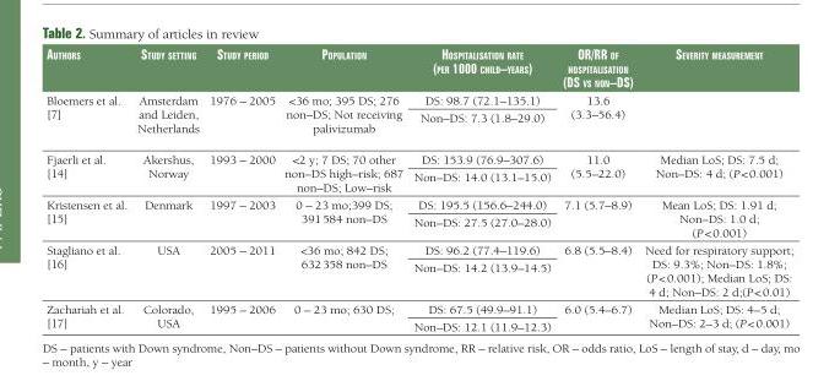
<table><thead><tr><td>AuthorS</td><td>Study Setting</td><td>Study period</td><td>popuLAtion</td><td>hoSpitALiSAtion rAte (per 1000 chiLd–yeArS)</td><td>or/rr of hoSpitALiSAtion (dS VS non–dS)</td><td>SeVerity meASurement</td></tr></thead><tbody><tr><td rowspan="2">Bloemers et al. [7]</td><td rowspan="2">Amsterdam and Leiden, Netherlands</td><td rowspan="2">1976 – 2005</td><td rowspan="2">&lt;36 mo; 395 DS; 276 non–DS; Not receiving palivizumab</td><td>DS: 98.7 (72.1–135.1)</td><td rowspan="2">13.6 (3.3–56.4)</td><td rowspan="2"></td></tr><tr><td>Non–DS: 7.3 (1.8–29.0)</td></tr><tr><td rowspan="2">Fjaerli et al. [14]</td><td rowspan="2">Akershus, Norway</td><td rowspan="2">1993 – 2000</td><td rowspan="2">&lt;2 y; 7 DS; 70 other non–DS high–risk; 687 non–DS; Low–risk</td><td>DS: 153.9 (76.9–307.6)</td><td rowspan="2">11.0 (5.5–22.0)</td><td rowspan="2">Median LoS; DS: 7.5 d; Non–DS: 4 d; (P &lt; 0.001)</td></tr><tr><td>Non–DS: 14.0 (13.1–15.0)</td></tr><tr><td rowspan="2">Kristensen et al. [15]</td><td rowspan="2">Denmark</td><td rowspan="2">1997 – 2003</td><td rowspan="2">0 – 23 mo;399 DS; 391 584 non–DS</td><td>DS: 195.5 (156.6–244.0)</td><td rowspan="2">7.1 (5.7–8.9)</td><td rowspan="2">Mean LoS; DS: 1.91 d; Non–DS: 1.0 d; (P &lt; 0.001)</td></tr><tr><td>Non–DS: 27.5 (27.0–28.0)</td></tr><tr><td rowspan="2">Stagliano et al. [16]</td><td rowspan="2">USA</td><td rowspan="2">2005 – 2011</td><td rowspan="2">&lt;36 mo; 842 DS; 632 358 non–DS</td><td>DS: 96.2 (77.4–119.6)</td><td rowspan="2">6.8 (5.5–8.4)</td><td rowspan="2">Need for respiratory support; DS: 9.3%; Non–DS: 1.8%; (P &lt; 0.001); Median LoS; DS: 4 d; Non–DS: 2 d;(P &lt; 0.01)</td></tr><tr><td>Non–DS: 14.2 (13.9–14.5)</td></tr><tr><td rowspan="2">Zachariah et al. [17]</td><td rowspan="2">Colorado, USA</td><td rowspan="2">1995 – 2006</td><td rowspan="2">0 – 23 mo; 630 DS;</td><td>DS: 67.5 (49.9–91.1)</td><td rowspan="2">6.0 (5.4–6.7)</td><td rowspan="2">Median LoS; DS: 4–5 d; Non–DS: 2–3 d; (P &lt; 0.001)</td></tr><tr><td>Non–DS: 12.1 (11.9–12.3)</td></tr></tbody></table>